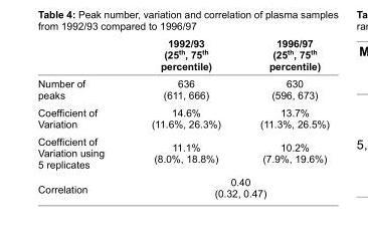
<table><thead><tr><td></td><td>1992/93 (25<sup>th</sup>, 75<sup>th</sup> percentile)</td><td>1996/97 (25<sup>th</sup>, 75<sup>th</sup> percentile)</td></tr></thead><tbody><tr><td>Number of peaks</td><td>636 (611, 666)</td><td>630 (596, 673)</td></tr><tr><td>Coeffi cient of Variation</td><td>14.6% (11.6%, 26.3%)</td><td>13.7% (11.3%, 26.5%)</td></tr><tr><td>Coeffi cient of Variation using 5 replicates</td><td>11.1% (8.0%, 18.8%)</td><td>10.2% (7.9%, 19.6%)</td></tr><tr><td>Correlation</td><td colspan="2">0.40 (0.32, 0.47)</td></tr></tbody></table>